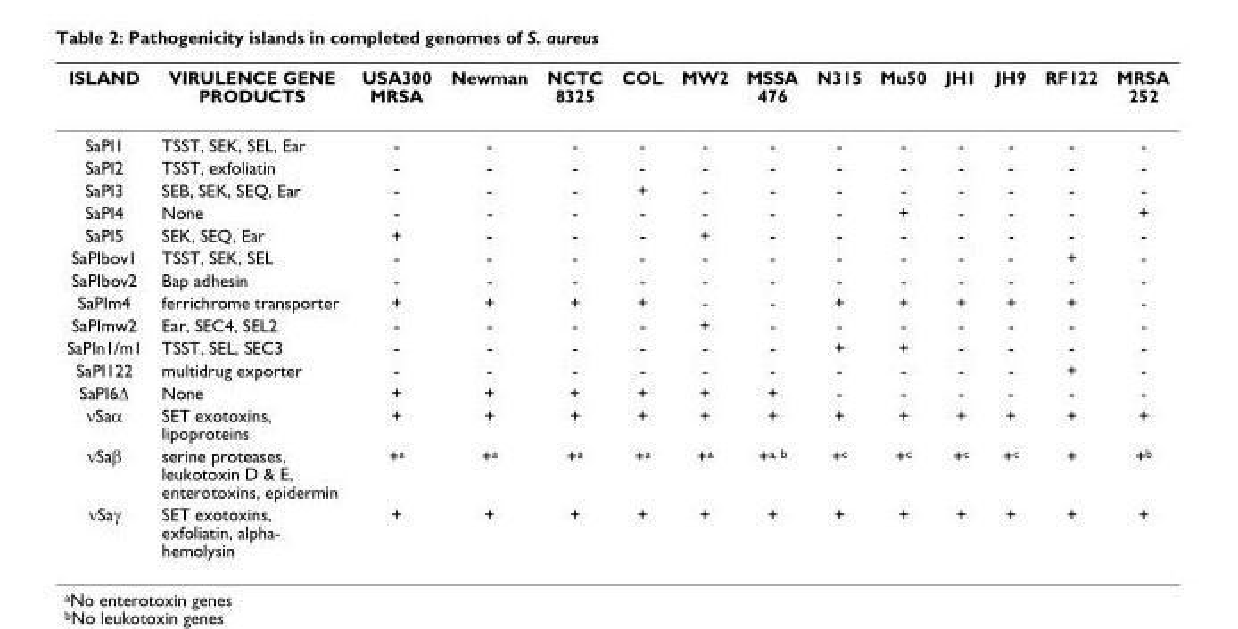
<table><thead><tr><td>ISLAND</td><td>VIRULENCE GENE PRODUCTS</td><td>USA300 MRSA</td><td>Newman</td><td>NCTC 8325</td><td>COL</td><td>MW2</td><td>MSSA 476</td><td>N315</td><td>Mu50</td><td>JH1</td><td>JH9</td><td>RF122</td><td>MRSA 252</td></tr></thead><tbody><tr><td>SaPI1</td><td>TSST, SEK, SEL, Ear</td><td>-</td><td>-</td><td>-</td><td>-</td><td>-</td><td>-</td><td>-</td><td>-</td><td>-</td><td>-</td><td>-</td><td>-</td></tr><tr><td>SaPI2</td><td>TSST, exfoliatin</td><td>-</td><td>-</td><td>-</td><td>-</td><td>-</td><td>-</td><td>-</td><td>-</td><td>-</td><td>-</td><td>-</td><td>-</td></tr><tr><td>SaPI3</td><td>SEB, SEK, SEQ, Ear</td><td>-</td><td>-</td><td>-</td><td>+</td><td>-</td><td>-</td><td>-</td><td>-</td><td>-</td><td>-</td><td>-</td><td>-</td></tr><tr><td>SaPI4</td><td>None</td><td>-</td><td>-</td><td>-</td><td>-</td><td>-</td><td>-</td><td>-</td><td>+</td><td>-</td><td>-</td><td>-</td><td>+</td></tr><tr><td>SaPI5</td><td>SEK, SEQ, Ear</td><td>+</td><td>-</td><td>-</td><td>-</td><td>+</td><td>-</td><td>-</td><td>-</td><td>-</td><td>-</td><td>-</td><td>-</td></tr><tr><td>SaPIbov1</td><td>TSST, SEK, SEL</td><td>-</td><td>-</td><td>-</td><td>-</td><td>-</td><td>-</td><td>-</td><td>-</td><td>-</td><td>-</td><td>+</td><td>-</td></tr><tr><td>SaPIbov2</td><td>Bap adhesin</td><td>-</td><td>-</td><td>-</td><td>-</td><td>-</td><td>-</td><td>-</td><td>-</td><td>-</td><td>-</td><td>-</td><td>-</td></tr><tr><td>SaPIm4</td><td>ferrichrome transporter</td><td>+</td><td>+</td><td>+</td><td>+</td><td>-</td><td>-</td><td>+</td><td>+</td><td>+</td><td>+</td><td>+</td><td>-</td></tr><tr><td>SaPImw2</td><td>Ear, SEC4, SEL2</td><td>-</td><td>-</td><td>-</td><td>-</td><td>+</td><td>-</td><td>-</td><td>-</td><td>-</td><td>-</td><td>-</td><td>-</td></tr><tr><td>SaPIn1/m1</td><td>TSST, SEL, SEC3</td><td>-</td><td>-</td><td>-</td><td>-</td><td>-</td><td>-</td><td>+</td><td>+</td><td>-</td><td>-</td><td>-</td><td>-</td></tr><tr><td>SaPI122</td><td>multidrug exporter</td><td>-</td><td>-</td><td>-</td><td>-</td><td>-</td><td>-</td><td>-</td><td>-</td><td>-</td><td>-</td><td>+</td><td>-</td></tr><tr><td>SaPI6Δ</td><td>None</td><td>+</td><td>+</td><td>+</td><td>+</td><td>+</td><td>+</td><td>-</td><td>-</td><td>-</td><td>-</td><td>-</td><td>-</td></tr><tr><td>νSaα</td><td>SET exotoxins, lipoproteins</td><td>+</td><td>+</td><td>+</td><td>+</td><td>+</td><td>+</td><td>+</td><td>+</td><td>+</td><td>+</td><td>+</td><td>+</td></tr><tr><td>νSaβ</td><td>serine proteases, leukotoxin D &amp; E, enterotoxins, epidermin</td><td>+<sup>a</sup></td><td>+<sup>a</sup></td><td>+<sup>a</sup></td><td>+<sup>a</sup></td><td>+<sup>a</sup></td><td>+<sup>a, b</sup></td><td>+<sup>c</sup></td><td>+<sup>c</sup></td><td>+<sup>c</sup></td><td>+<sup>c</sup></td><td>+</td><td>+<sup>b</sup></td></tr><tr><td>νSaγ</td><td>SET exotoxins, exfoliatin, alpha- hemolysin</td><td>+</td><td>+</td><td>+</td><td>+</td><td>+</td><td>+</td><td>+</td><td>+</td><td>+</td><td>+</td><td>+</td><td>+</td></tr></tbody></table>